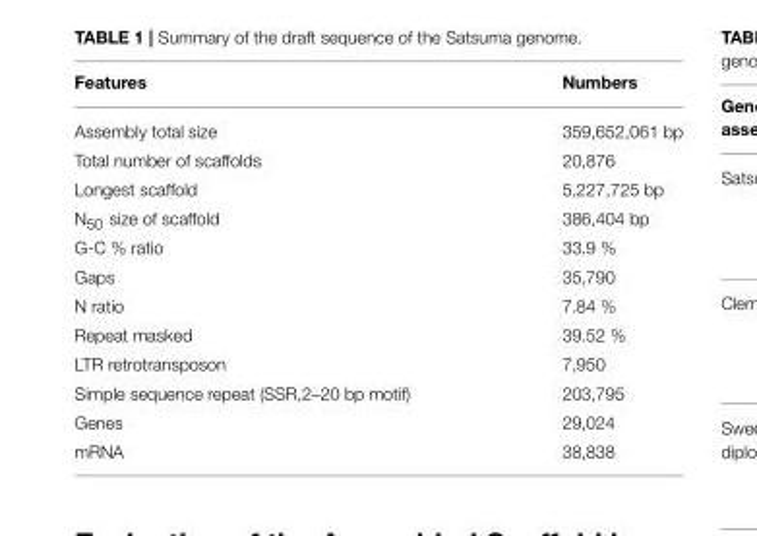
<table><thead><tr><td>Features</td><td>Numbers</td></tr></thead><tbody><tr><td>Assembly total size</td><td>359,652,061 bp</td></tr><tr><td>Total number of scaffolds</td><td>20,876</td></tr><tr><td>Longest scaffold</td><td>5,227,725 bp</td></tr><tr><td>N<sub>50</sub> size of scaffold</td><td>386,404 bp</td></tr><tr><td>G-C % ratio</td><td>33.9 %</td></tr><tr><td>Gaps</td><td>35,790</td></tr><tr><td>N ratio</td><td>7.84 %</td></tr><tr><td>Repeat masked</td><td>39.52 %</td></tr><tr><td>LTR retrotransposon</td><td>7,950</td></tr><tr><td>Simple sequence repeat (SSR,2–20 bp motif)</td><td>203,795</td></tr><tr><td>Genes</td><td>29,024</td></tr><tr><td>mRNA</td><td>38,838</td></tr></tbody></table>